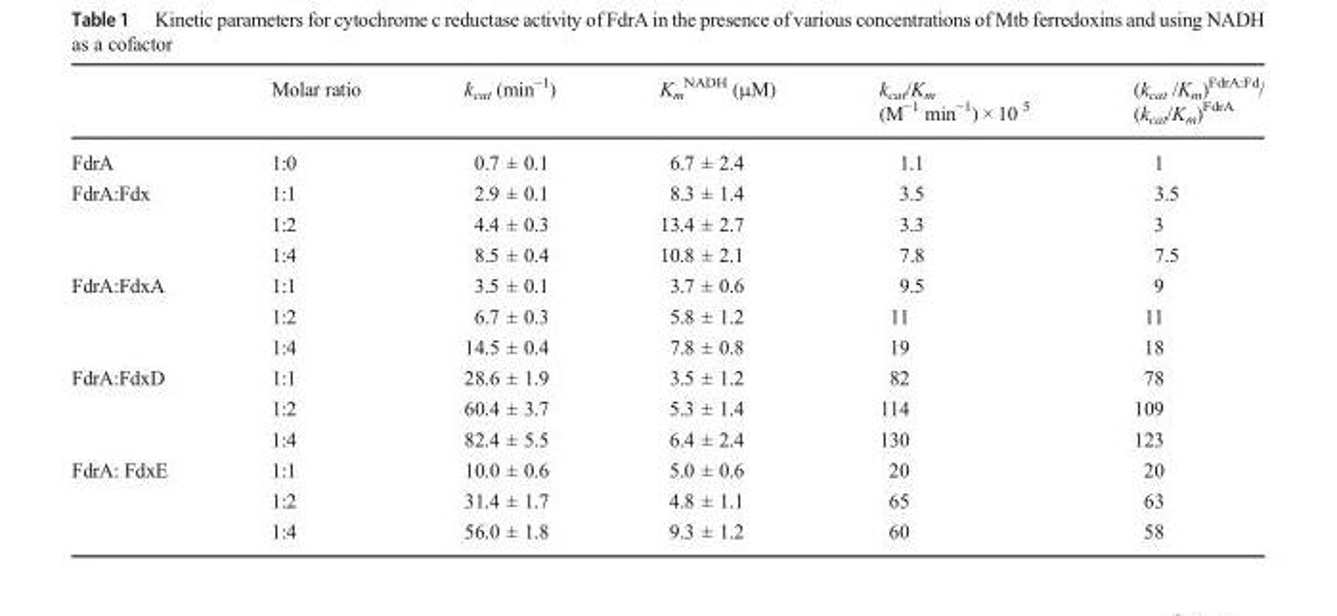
<table><thead><tr><td></td><td>Molar ratio</td><td>k<sub>cat</sub> (min<sup>−1</sup>)</td><td>K<sub>m</sub> <sup>NADH</sup> (μM)</td><td>k<sub>cat</sub>/K<sub>m</sub> (M<sup>−1</sup> min<sup>−1</sup>) × 10 <sup>5</sup></td><td>(k<sub>cat</sub> /K<sub>m</sub>)<sup>FdrA:Fd</sup>/ (k<sub>cat</sub>/K<sub>m</sub>)<sup>FdrA</sup></td></tr></thead><tbody><tr><td>FdrA</td><td>1:0</td><td>0.7 ± 0.1</td><td>6.7 ± 2.4</td><td>1.1</td><td>1</td></tr><tr><td rowspan="3">FdrA:Fdx</td><td>1:1</td><td>2.9 ± 0.1</td><td>8.3 ± 1.4</td><td>3.5</td><td>3.5</td></tr><tr><td>1:2</td><td>4.4 ± 0.3</td><td>13.4 ± 2.7</td><td>3.3</td><td>3</td></tr><tr><td>1:4</td><td>8.5 ± 0.4</td><td>10.8 ± 2.1</td><td>7.8</td><td>7.5</td></tr><tr><td rowspan="3">FdrA:FdxA</td><td>1:1</td><td>3.5 ± 0.1</td><td>3.7 ± 0.6</td><td>9.5</td><td>9</td></tr><tr><td>1:2</td><td>6.7 ± 0.3</td><td>5.8 ± 1.2</td><td>11</td><td>11</td></tr><tr><td>1:4</td><td>14.5 ± 0.4</td><td>7.8 ± 0.8</td><td>19</td><td>18</td></tr><tr><td rowspan="3">FdrA:FdxD</td><td>1:1</td><td>28.6 ± 1.9</td><td>3.5 ± 1.2</td><td>82</td><td>78</td></tr><tr><td>1:2</td><td>60.4 ± 3.7</td><td>5.3 ± 1.4</td><td>114</td><td>109</td></tr><tr><td>1:4</td><td>82.4 ± 5.5</td><td>6.4 ± 2.4</td><td>130</td><td>123</td></tr><tr><td rowspan="3">FdrA: FdxE</td><td>1:1</td><td>10.0 ± 0.6</td><td>5.0 ± 0.6</td><td>20</td><td>20</td></tr><tr><td>1:2</td><td>31.4 ± 1.7</td><td>4.8 ± 1.1</td><td>65</td><td>63</td></tr><tr><td>1:4</td><td>56.0 ± 1.8</td><td>9.3 ± 1.2</td><td>60</td><td>58</td></tr></tbody></table>